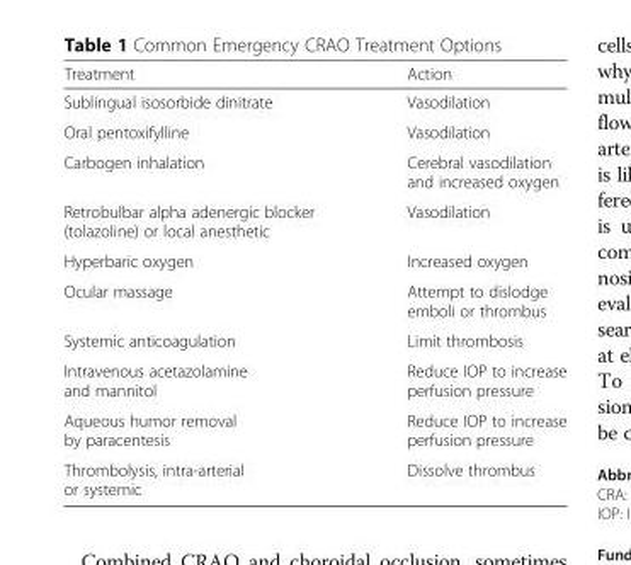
<table><thead><tr><td>Treatment</td><td>Action</td></tr></thead><tbody><tr><td>Sublingual isosorbide dinitrate</td><td>Vasodilation</td></tr><tr><td>Oral pentoxifylline</td><td>Vasodilation</td></tr><tr><td>Carbogen inhalation</td><td>Cerebral vasodilation and increased oxygen</td></tr><tr><td>Retrobulbar alpha adenergic blocker (tolazoline) or local anesthetic</td><td>Vasodilation</td></tr><tr><td>Hyperbaric oxygen</td><td>Increased oxygen</td></tr><tr><td>Ocular massage</td><td>Attempt to dislodge emboli or thrombus</td></tr><tr><td>Systemic anticoagulation</td><td>Limit thrombosis</td></tr><tr><td>Intravenous acetazolamine and mannitol</td><td>Reduce IOP to increase perfusion pressure</td></tr><tr><td>Aqueous humor removal by paracentesis</td><td>Reduce IOP to increase perfusion pressure</td></tr><tr><td>Thrombolysis, intra-arterial or systemic</td><td>Dissolve thrombus</td></tr></tbody></table>